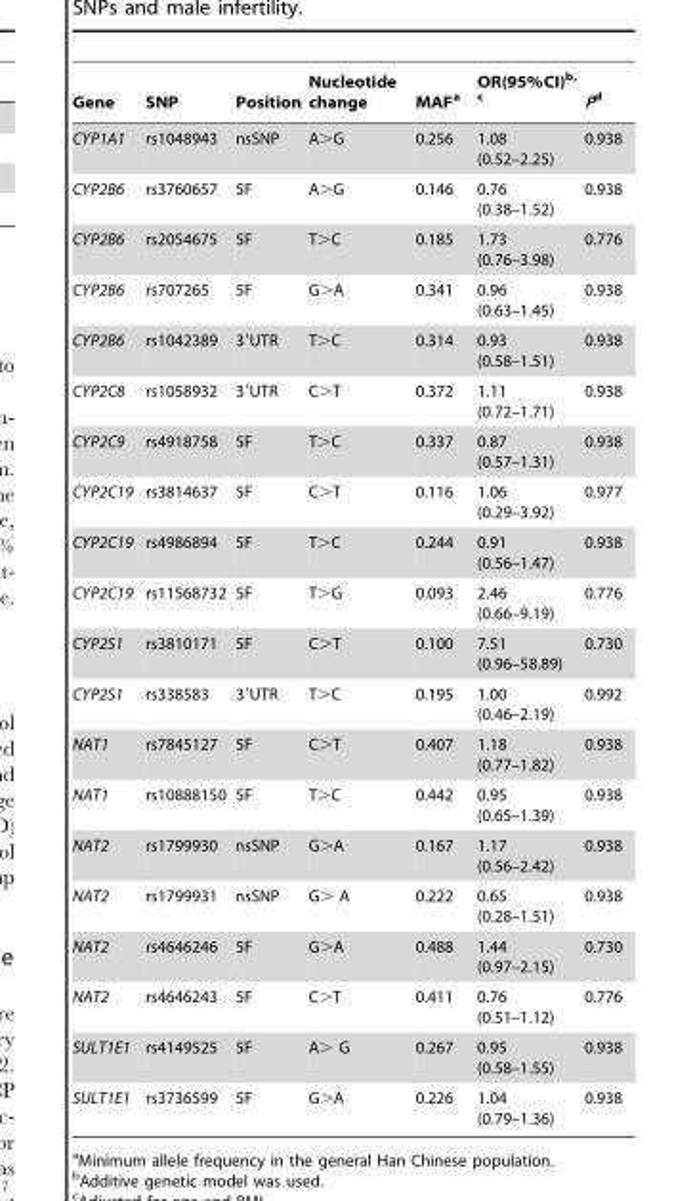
<table><thead><tr><td>Gene</td><td>SNP</td><td>Position</td><td>Nucleotide change</td><td>MAF<sup>a</sup></td><td>OR(95%CI)b, c</td><td>Pd</td></tr></thead><tbody><tr><td>CYP1A1</td><td>rs1048943</td><td>nsSNP</td><td>A&gt;G</td><td>0.256</td><td>1.08 (0.52–2.25)</td><td>0.938</td></tr><tr><td>CYP2B6</td><td>rs3760657</td><td>5F</td><td>A&gt;G</td><td>0.146</td><td>0.76 (0.38–1.52)</td><td>0.938</td></tr><tr><td>CYP2B6</td><td>rs2054675</td><td>5F</td><td>T&gt;C</td><td>0.185</td><td>1.73 (0.76–3.98)</td><td>0.776</td></tr><tr><td>CYP2B6</td><td>rs707265</td><td>5F</td><td>G&gt;A</td><td>0.341</td><td>0.96 (0.63–1.45)</td><td>0.938</td></tr><tr><td>CYP2B6</td><td>rs1042389</td><td>3′UTR</td><td>T&gt;C</td><td>0.314</td><td>0.93 (0.58–1.51)</td><td>0.938</td></tr><tr><td>CYP2C8</td><td>rs1058932</td><td>3′UTR</td><td>C&gt;T</td><td>0.372</td><td>1.11 (0.72–1.71)</td><td>0.938</td></tr><tr><td>CYP2C9</td><td>rs4918758</td><td>5F</td><td>T&gt;C</td><td>0.337</td><td>0.87 (0.57–1.31)</td><td>0.938</td></tr><tr><td>CYP2C19</td><td>rs3814637</td><td>5F</td><td>C&gt;T</td><td>0.116</td><td>1.06 (0.29–3.92)</td><td>0.977</td></tr><tr><td>CYP2C19</td><td>rs4986894</td><td>5F</td><td>T&gt;C</td><td>0.244</td><td>0.91 (0.56–1.47)</td><td>0.938</td></tr><tr><td>CYP2C19</td><td>rs11568732</td><td>5F</td><td>T&gt;G</td><td>0.093</td><td>2.46 (0.66–9.19)</td><td>0.776</td></tr><tr><td>CYP2S1</td><td>rs3810171</td><td>5F</td><td>C&gt;T</td><td>0.100</td><td>7.51 (0.96–58.89)</td><td>0.730</td></tr><tr><td>CYP2S1</td><td>rs338583</td><td>3′UTR</td><td>T&gt;C</td><td>0.195</td><td>1.00 (0.46–2.19)</td><td>0.992</td></tr><tr><td>NAT1</td><td>rs7845127</td><td>5F</td><td>C&gt;T</td><td>0.407</td><td>1.18 (0.77–1.82)</td><td>0.938</td></tr><tr><td>NAT1</td><td>rs10888150</td><td>5F</td><td>T&gt;C</td><td>0.442</td><td>0.95 (0.65–1.39)</td><td>0.938</td></tr><tr><td>NAT2</td><td>rs1799930</td><td>nsSNP</td><td>G&gt;A</td><td>0.167</td><td>1.17 (0.56–2.42)</td><td>0.938</td></tr><tr><td>NAT2</td><td>rs1799931</td><td>nsSNP</td><td>G&gt; A</td><td>0.222</td><td>0.65 (0.28–1.51)</td><td>0.938</td></tr><tr><td>NAT2</td><td>rs4646246</td><td>5F</td><td>G&gt;A</td><td>0.488</td><td>1.44 (0.97–2.15)</td><td>0.730</td></tr><tr><td>NAT2</td><td>rs4646243</td><td>5F</td><td>C&gt;T</td><td>0.411</td><td>0.76 (0.51–1.12)</td><td>0.776</td></tr><tr><td>SULT1E1</td><td>rs4149525</td><td>5F</td><td>A&gt; G</td><td>0.267</td><td>0.95 (0.58–1.55)</td><td>0.938</td></tr><tr><td>SULT1E1</td><td>rs3736599</td><td>5F</td><td>G&gt;A</td><td>0.226</td><td>1.04 (0.79–1.36)</td><td>0.938</td></tr></tbody></table>